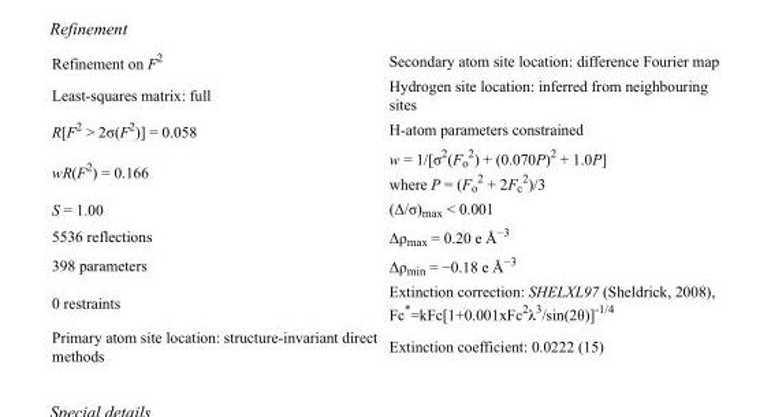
<table><tbody><tr><td>Refinement on F<sup>2</sup></td><td>Secondary atom site location: difference Fourier map</td></tr><tr><td>Least-squares matrix: full</td><td>Hydrogen site location: inferred from neighbouring sites</td></tr><tr><td>R[F<sup>2</sup> &gt; 2σ(F<sup>2</sup>)] = 0.058</td><td>H-atom parameters constrained</td></tr><tr><td>wR(F<sup>2</sup>) = 0.166</td><td>w = 1/[σ<sup>2</sup>(F<sub>o</sub> <sup>2</sup>) + (0.070P)<sup>2</sup> + 1.0P] where P = (F<sub>o</sub> <sup>2</sup> + 2F<sub>c</sub> <sup>2</sup>)/3</td></tr><tr><td>S = 1.00</td><td>(Δ/σ)<sub>max</sub> &lt; 0.001</td></tr><tr><td>5536 reflections</td><td>Δρ<sub>max</sub> = 0.20 e Å<sup>−3</sup></td></tr><tr><td>398 parameters</td><td>Δρ<sub>min</sub> = −0.18 e Å<sup>−3</sup></td></tr><tr><td>0 restraints</td><td>Extinction correction: SHELXL97 (Sheldrick, 2008), Fc*=kFc[1+0.001xFc<sup>2</sup>λ<sup>3</sup>/sin(2θ)]<sup>-1/4</sup></td></tr><tr><td>Primary atom site location: structure-invariant direct methods</td><td>Extinction coefficient: 0.0222 (15)</td></tr></tbody></table>